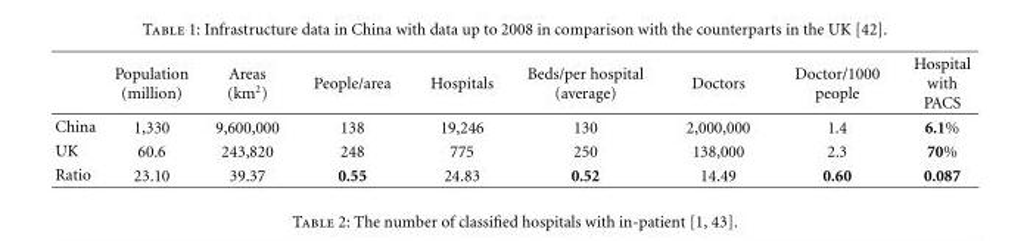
<table><thead><tr><td></td><td>Population (million)</td><td>Areas (km<sup>2</sup>)</td><td>People/area</td><td>Hospitals</td><td>Beds/per hospital (average)</td><td>Doctors</td><td>Doctor/1000 people</td><td>Hospital with PACS</td></tr></thead><tbody><tr><td>China</td><td>1,330</td><td>9,600,000</td><td>138</td><td>19,246</td><td>130</td><td>2,000,000</td><td>1.4</td><td>6.1%</td></tr><tr><td>UK</td><td>60.6</td><td>243,820</td><td>248</td><td>775</td><td>250</td><td>138,000</td><td>2.3</td><td>70%</td></tr><tr><td>Ratio</td><td>23.10</td><td>39.37</td><td>0.55</td><td>24.83</td><td>0.52</td><td>14.49</td><td>0.60</td><td>0.087</td></tr></tbody></table>